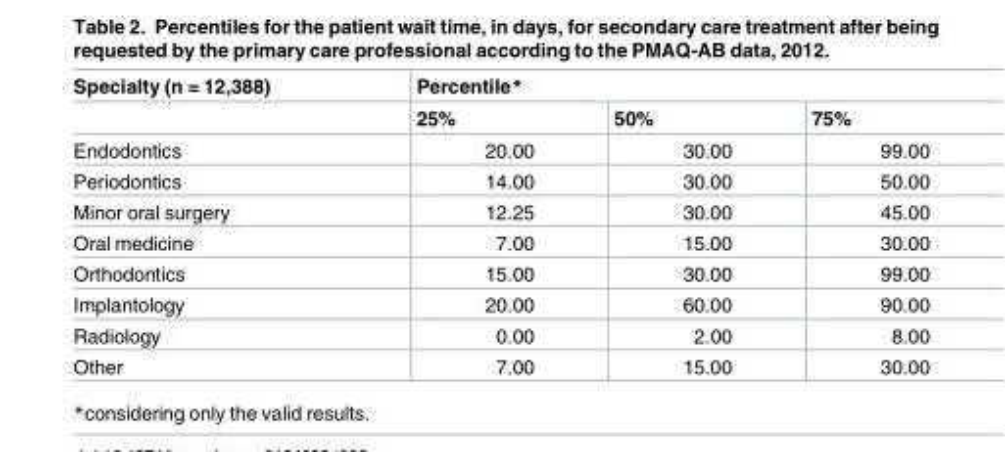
<table><thead><tr><td rowspan="2">Specialty (n = 12,388)</td><td colspan="3">Percentile*</td></tr><tr><td>25%</td><td>50%</td><td>75%</td></tr></thead><tbody><tr><td>Endodontics</td><td>20.00</td><td>30.00</td><td>99.00</td></tr><tr><td>Periodontics</td><td>14.00</td><td>30.00</td><td>50.00</td></tr><tr><td>Minor oral surgery</td><td>12.25</td><td>30.00</td><td>45.00</td></tr><tr><td>Oral medicine</td><td>7.00</td><td>15.00</td><td>30.00</td></tr><tr><td>Orthodontics</td><td>15.00</td><td>30.00</td><td>99.00</td></tr><tr><td>Implantology</td><td>20.00</td><td>60.00</td><td>90.00</td></tr><tr><td>Radiology</td><td>0.00</td><td>2.00</td><td>8.00</td></tr><tr><td>Other</td><td>7.00</td><td>15.00</td><td>30.00</td></tr></tbody></table>